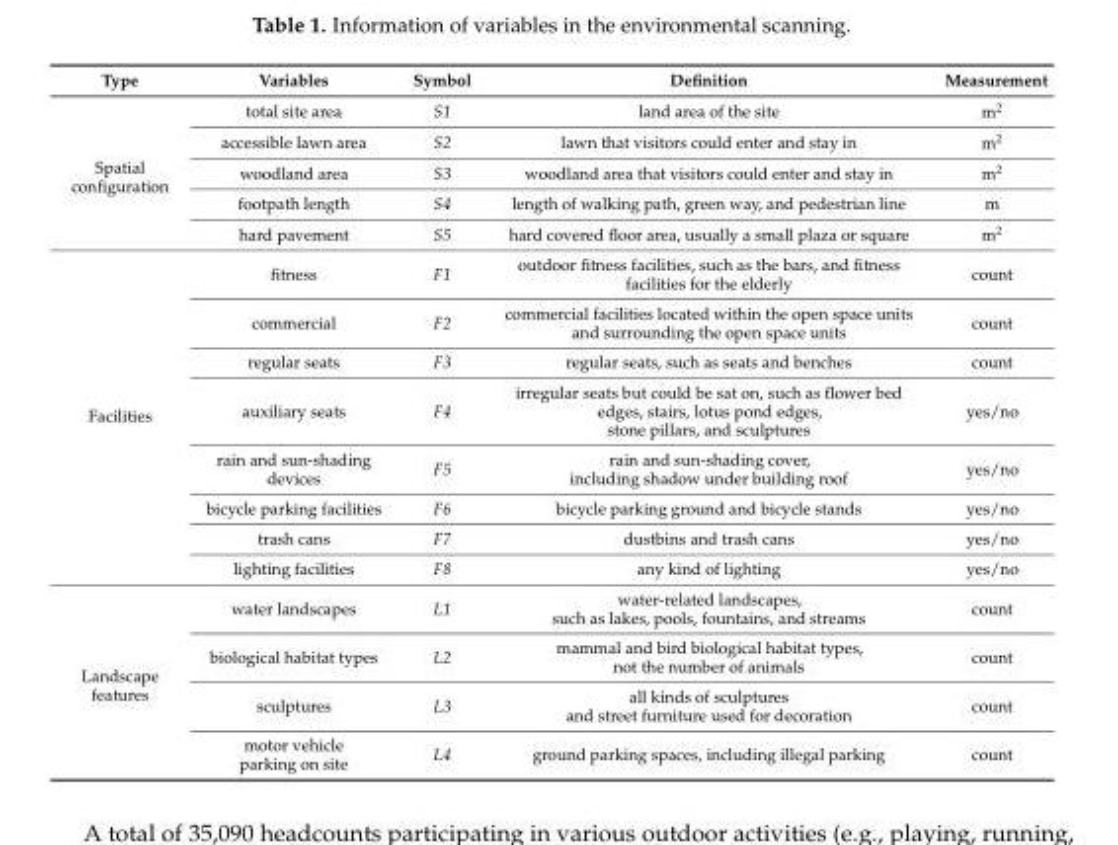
<table><thead><tr><td>Type</td><td>Variables</td><td>Symbol</td><td>Definition</td><td>Measurement</td></tr></thead><tbody><tr><td rowspan="5">Spatial configuration</td><td>total site area</td><td>S1</td><td>land area of the site</td><td>m<sup>2</sup></td></tr><tr><td>accessible lawn area</td><td>S2</td><td>lawn that visitors could enter and stay in</td><td>m<sup>2</sup></td></tr><tr><td>woodland area</td><td>S3</td><td>woodland area that visitors could enter and stay in</td><td>m<sup>2</sup></td></tr><tr><td>footpath length</td><td>S4</td><td>length of walking path, green way, and pedestrian line</td><td>m</td></tr><tr><td>hard pavement</td><td>S5</td><td>hard covered floor area, usually a small plaza or square</td><td>m<sup>2</sup></td></tr><tr><td rowspan="8">Facilities</td><td>fitness</td><td>F1</td><td>outdoor fitness facilities, such as the bars, and fitness facilities for the elderly</td><td>count</td></tr><tr><td>commercial</td><td>F2</td><td>commercial facilities located within the open space units and surrounding the open space units</td><td>count</td></tr><tr><td>regular seats</td><td>F3</td><td>regular seats, such as seats and benches</td><td>count</td></tr><tr><td>auxiliary seats</td><td>F4</td><td>irregular seats but could be sat on, such as flower bed edges, stairs, lotus pond edges, stone pillars, and sculptures</td><td>yes/no</td></tr><tr><td>rain and sun-shading devices</td><td>F5</td><td>rain and sun-shading cover, including shadow under building roof</td><td>yes/no</td></tr><tr><td>bicycle parking facilities</td><td>F6</td><td>bicycle parking ground and bicycle stands</td><td>yes/no</td></tr><tr><td>trash cans</td><td>F7</td><td>dustbins and trash cans</td><td>yes/no</td></tr><tr><td>lighting facilities</td><td>F8</td><td>any kind of lighting</td><td>yes/no</td></tr><tr><td rowspan="4">Landscape features</td><td>water landscapes</td><td>L1</td><td>water-related landscapes, such as lakes, pools, fountains, and streams</td><td>count</td></tr><tr><td>biological habitat types</td><td>L2</td><td>mammal and bird biological habitat types, not the number of animals</td><td>count</td></tr><tr><td>sculptures</td><td>L3</td><td>all kinds of sculptures and street furniture used for decoration</td><td>count</td></tr><tr><td>motor vehicle parking on site</td><td>L4</td><td>ground parking spaces, including illegal parking</td><td>count</td></tr></tbody></table>